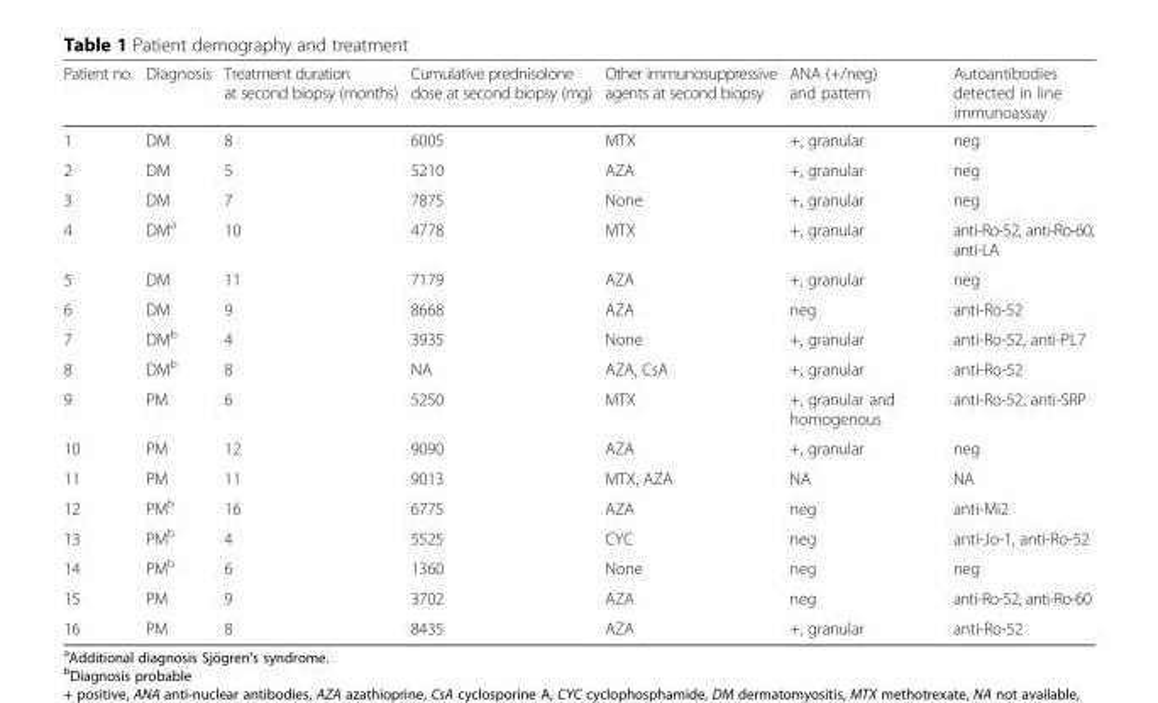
<table><thead><tr><td>Patient no.</td><td>Diagnosis</td><td>Treatment duration at second biopsy (months)</td><td>Cumulative prednisolone dose at second biopsy (mg)</td><td>Other immunosuppressive agents at second biopsy</td><td>ANA (+/neg) and pattern</td><td>Autoantibodies detected in line immunoassay</td></tr></thead><tbody><tr><td>1</td><td>DM</td><td>8</td><td>6005</td><td>MTX</td><td>+, granular</td><td>neg</td></tr><tr><td>2</td><td>DM</td><td>5</td><td>5210</td><td>AZA</td><td>+, granular</td><td>neg</td></tr><tr><td>3</td><td>DM</td><td>7</td><td>7875</td><td>None</td><td>+, granular</td><td>neg</td></tr><tr><td>4</td><td>DM<sup>a</sup></td><td>10</td><td>4778</td><td>MTX</td><td>+, granular</td><td>anti-Ro-52, anti-Ro-60, anti-LA</td></tr><tr><td>5</td><td>DM</td><td>11</td><td>7179</td><td>AZA</td><td>+, granular</td><td>neg</td></tr><tr><td>6</td><td>DM</td><td>9</td><td>8668</td><td>AZA</td><td>neg</td><td>anti-Ro-52</td></tr><tr><td>7</td><td>DM<sup>b</sup></td><td>4</td><td>3935</td><td>None</td><td>+, granular</td><td>anti-Ro-52, anti-PL7</td></tr><tr><td>8</td><td>DM<sup>b</sup></td><td>8</td><td>NA</td><td>AZA, CsA</td><td>+, granular</td><td>anti-Ro-52</td></tr><tr><td>9</td><td>PM</td><td>6</td><td>5250</td><td>MTX</td><td>+, granular and homogenous</td><td>anti-Ro-52, anti-SRP</td></tr><tr><td>10</td><td>PM</td><td>12</td><td>9090</td><td>AZA</td><td>+, granular</td><td>neg</td></tr><tr><td>11</td><td>PM</td><td>11</td><td>9013</td><td>MTX, AZA</td><td>NA</td><td>NA</td></tr><tr><td>12</td><td>PM<sup>b</sup></td><td>16</td><td>6775</td><td>AZA</td><td>neg</td><td>anti-Mi2</td></tr><tr><td>13</td><td>PM<sup>b</sup></td><td>4</td><td>5525</td><td>CYC</td><td>neg</td><td>anti-Jo-1, anti-Ro-52</td></tr><tr><td>14</td><td>PM<sup>b</sup></td><td>6</td><td>1360</td><td>None</td><td>neg</td><td>neg</td></tr><tr><td>15</td><td>PM</td><td>9</td><td>3702</td><td>AZA</td><td>neg</td><td>anti-Ro-52, anti-Ro-60</td></tr><tr><td>16</td><td>PM</td><td>8</td><td>8435</td><td>AZA</td><td>+, granular</td><td>anti-Ro-52</td></tr></tbody></table>